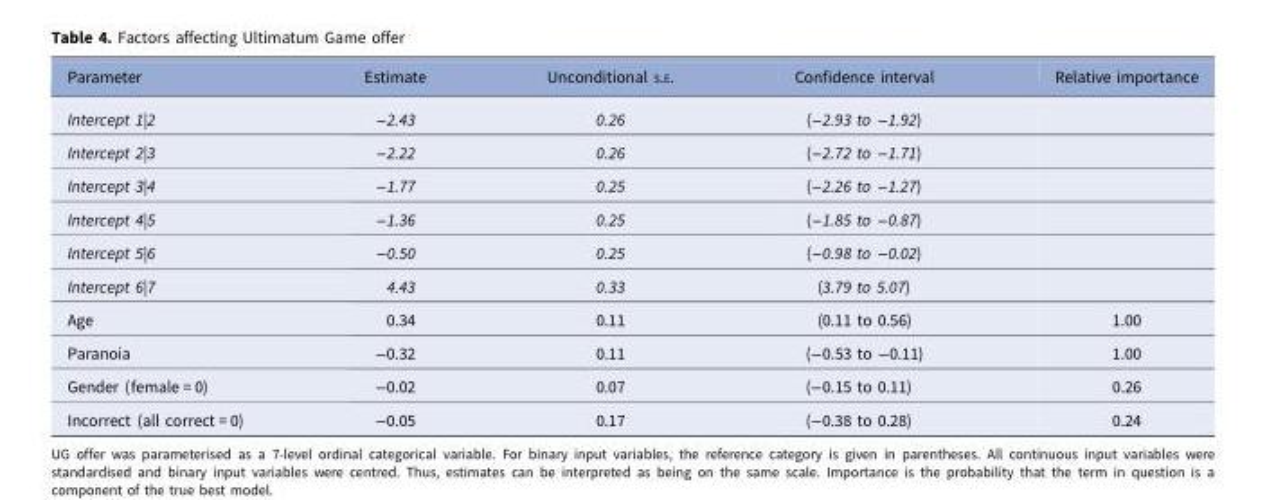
<table><thead><tr><td>Parameter</td><td>Estimate</td><td>Unconditional S.E.</td><td>Confidence interval</td><td>Relative importance</td></tr></thead><tbody><tr><td>Intercept 1|2</td><td>−2.43</td><td>0.26</td><td>(−2.93 to −1.92)</td><td></td></tr><tr><td>Intercept 2|3</td><td>−2.22</td><td>0.26</td><td>(−2.72 to −1.71)</td><td></td></tr><tr><td>Intercept 3|4</td><td>−1.77</td><td>0.25</td><td>(−2.26 to −1.27)</td><td></td></tr><tr><td>Intercept 4|5</td><td>−1.36</td><td>0.25</td><td>(−1.85 to −0.87)</td><td></td></tr><tr><td>Intercept 5|6</td><td>−0.50</td><td>0.25</td><td>(−0.98 to −0.02)</td><td></td></tr><tr><td>Intercept 6|7</td><td>4.43</td><td>0.33</td><td>(3.79 to 5.07)</td><td></td></tr><tr><td>Age</td><td>0.34</td><td>0.11</td><td>(0.11 to 0.56)</td><td>1.00</td></tr><tr><td>Paranoia</td><td>−0.32</td><td>0.11</td><td>(−0.53 to −0.11)</td><td>1.00</td></tr><tr><td>Gender (female = 0)</td><td>−0.02</td><td>0.07</td><td>(−0.15 to 0.11)</td><td>0.26</td></tr><tr><td>Incorrect (all correct = 0)</td><td>−0.05</td><td>0.17</td><td>(−0.38 to 0.28)</td><td>0.24</td></tr></tbody></table>